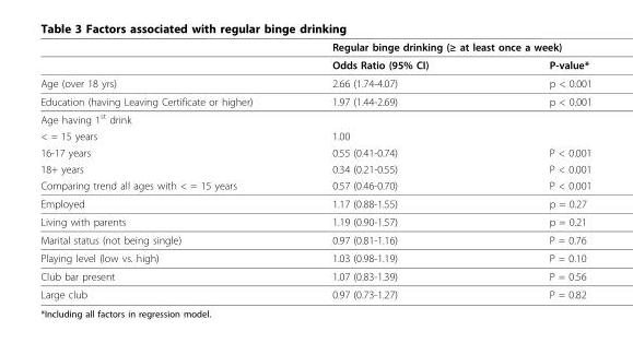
<table><thead><tr><td rowspan="2"></td><td colspan="2">Regular binge drinking (≥ at least once a week)</td></tr><tr><td>Odds Ratio (95% CI)</td><td>P-value*</td></tr></thead><tbody><tr><td>Age (over 18 yrs)</td><td>2.66 (1.74-4.07)</td><td>p &lt; 0.001</td></tr><tr><td>Education (having Leaving Certificate or higher)</td><td>1.97 (1.44-2.69)</td><td>p &lt; 0.001</td></tr><tr><td colspan="3">Age having 1<sup>st</sup> drink</td></tr><tr><td>&lt; = 15 years</td><td>1.00</td><td></td></tr><tr><td>16-17 years</td><td>0.55 (0.41-0.74)</td><td>P &lt; 0.001</td></tr><tr><td>18+ years</td><td>0.34 (0.21-0.55)</td><td>P &lt; 0.001</td></tr><tr><td>Comparing trend all ages with &lt; = 15 years</td><td>0.57 (0.46-0.70)</td><td>P &lt; 0.001</td></tr><tr><td>Employed</td><td>1.17 (0.88-1.55)</td><td>p = 0.27</td></tr><tr><td>Living with parents</td><td>1.19 (0.90-1.57)</td><td>p = 0.21</td></tr><tr><td>Marital status (not being single)</td><td>0.97 (0.81-1.16)</td><td>P = 0.76</td></tr><tr><td>Playing level (low vs. high)</td><td>1.03 (0.98-1.19)</td><td>P = 0.10</td></tr><tr><td>Club bar present</td><td>1.07 (0.83-1.39)</td><td>P = 0.56</td></tr><tr><td>Large club</td><td>0.97 (0.73-1.27)</td><td>P = 0.82</td></tr></tbody></table>